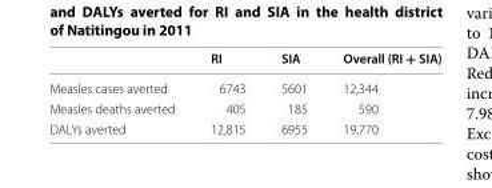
<table><thead><tr><td></td><td>RI</td><td>SIA</td><td>Overall (RI + SIA)</td></tr></thead><tbody><tr><td>Measles cases averted</td><td>6743</td><td>5601</td><td>12,344</td></tr><tr><td>Measles deaths averted</td><td>405</td><td>185</td><td>590</td></tr><tr><td>DALYs averted</td><td>12,815</td><td>6955</td><td>19,770</td></tr></tbody></table>